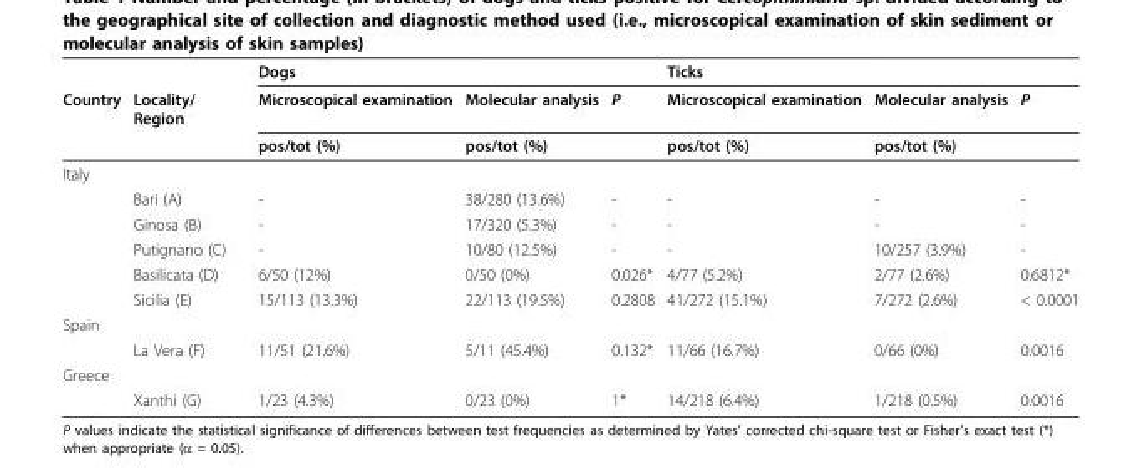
<table><thead><tr><td rowspan="3">Country</td><td rowspan="3">Locality/ Region</td><td colspan="2">Dogs</td><td rowspan="3">P</td><td colspan="2">Ticks</td><td rowspan="3">P</td></tr><tr><td rowspan="2">Microscopical examination pos/tot (%)</td><td rowspan="2">Molecular analysis pos/tot (%)</td><td rowspan="2">Microscopical examination pos/tot (%)</td><td rowspan="2">Molecular analysis pos/tot (%)</td></tr><tr></tr></thead><tbody><tr><td colspan="8">Italy</td></tr><tr><td></td><td>Bari (A)</td><td>-</td><td>38/280 (13.6%)</td><td>-</td><td>-</td><td>-</td><td>-</td></tr><tr><td></td><td>Ginosa (B)</td><td>-</td><td>17/320 (5.3%)</td><td>-</td><td>-</td><td>-</td><td>-</td></tr><tr><td></td><td>Putignano (C)</td><td>-</td><td>10/80 (12.5%)</td><td>-</td><td>-</td><td>10/257 (3.9%)</td><td>-</td></tr><tr><td></td><td>Basilicata (D)</td><td>6/50 (12%)</td><td>0/50 (0%)</td><td>0.026*</td><td>4/77 (5.2%)</td><td>2/77 (2.6%)</td><td>0.6812*</td></tr><tr><td></td><td>Sicilia (E)</td><td>15/113 (13.3%)</td><td>22/113 (19.5%)</td><td>0.2808</td><td>41/272 (15.1%)</td><td>7/272 (2.6%)</td><td>&lt; 0.0001</td></tr><tr><td colspan="8">Spain</td></tr><tr><td></td><td>La Vera (F)</td><td>11/51 (21.6%)</td><td>5/11 (45.4%)</td><td>0.132*</td><td>11/66 (16.7%)</td><td>0/66 (0%)</td><td>0.0016</td></tr><tr><td colspan="8">Greece</td></tr><tr><td></td><td>Xanthi (G)</td><td>1/23 (4.3%)</td><td>0/23 (0%)</td><td>1*</td><td>14/218 (6.4%)</td><td>1/218 (0.5%)</td><td>0.0016</td></tr></tbody></table>